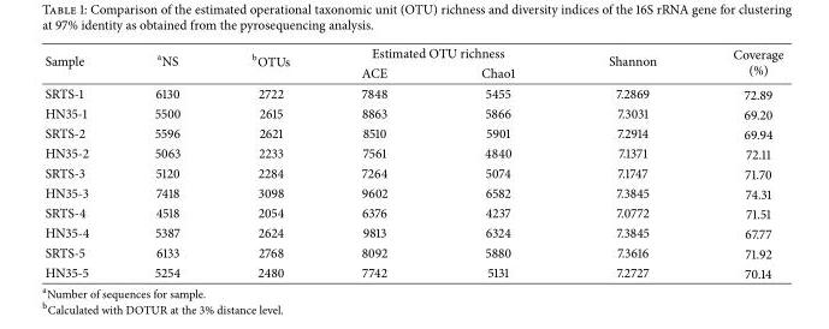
<table><thead><tr><td rowspan="2">Sample</td><td rowspan="2"><sup>a</sup>NS</td><td rowspan="2"><sup>b</sup>OTUs</td><td colspan="2">Estimated OTU richness</td><td rowspan="2">Shannon</td><td rowspan="2">Coverage (%)</td></tr><tr><td>ACE</td><td>Chao1</td></tr></thead><tbody><tr><td>SRTS-1</td><td>6130</td><td>2722</td><td>7848</td><td>5455</td><td>7.2869</td><td>72.89</td></tr><tr><td>HN35-1</td><td>5500</td><td>2615</td><td>8863</td><td>5866</td><td>7.3031</td><td>69.20</td></tr><tr><td>SRTS-2</td><td>5596</td><td>2621</td><td>8510</td><td>5901</td><td>7.2914</td><td>69.94</td></tr><tr><td>HN35-2</td><td>5063</td><td>2233</td><td>7561</td><td>4840</td><td>7.1371</td><td>72.11</td></tr><tr><td>SRTS-3</td><td>5120</td><td>2284</td><td>7264</td><td>5074</td><td>7.1747</td><td>71.70</td></tr><tr><td>HN35-3</td><td>7418</td><td>3098</td><td>9602</td><td>6582</td><td>7.3845</td><td>74.31</td></tr><tr><td>SRTS-4</td><td>4518</td><td>2054</td><td>6376</td><td>4237</td><td>7.0772</td><td>71.51</td></tr><tr><td>HN35-4</td><td>5387</td><td>2624</td><td>9813</td><td>6324</td><td>7.3845</td><td>67.77</td></tr><tr><td>SRTS-5</td><td>6133</td><td>2768</td><td>8092</td><td>5880</td><td>7.3616</td><td>71.92</td></tr><tr><td>HN35-5</td><td>5254</td><td>2480</td><td>7742</td><td>5131</td><td>7.2727</td><td>70.14</td></tr></tbody></table>